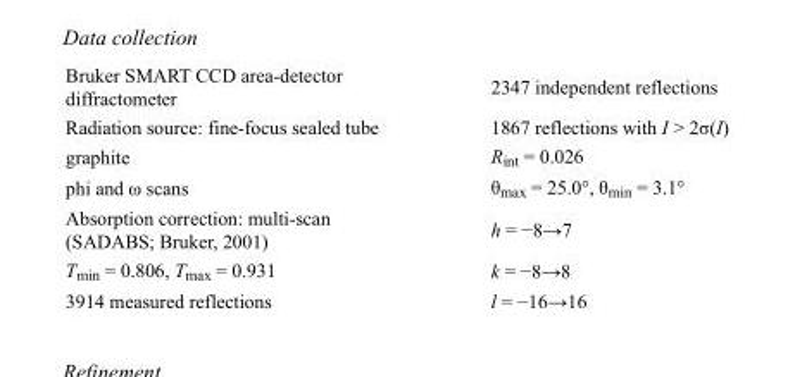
<table><tbody><tr><td>Bruker SMART CCD area-detector diffractometer</td><td>2347 independent reflections</td></tr><tr><td>Radiation source: fine-focus sealed tube</td><td>1867 reflections with I &gt; 2σ(I)</td></tr><tr><td>graphite</td><td>R<sub>int</sub> = 0.026</td></tr><tr><td>phi and ω scans</td><td>θ<sub>max</sub> = 25.0°, θ<sub>min</sub> = 3.1°</td></tr><tr><td>Absorption correction: multi-scan (SADABS; Bruker, 2001)</td><td>h = −8→7</td></tr><tr><td>T<sub>min</sub> = 0.806, T<sub>max</sub> = 0.931</td><td>k = −8→8</td></tr><tr><td>3914 measured reflections</td><td>l = −16→16</td></tr></tbody></table>